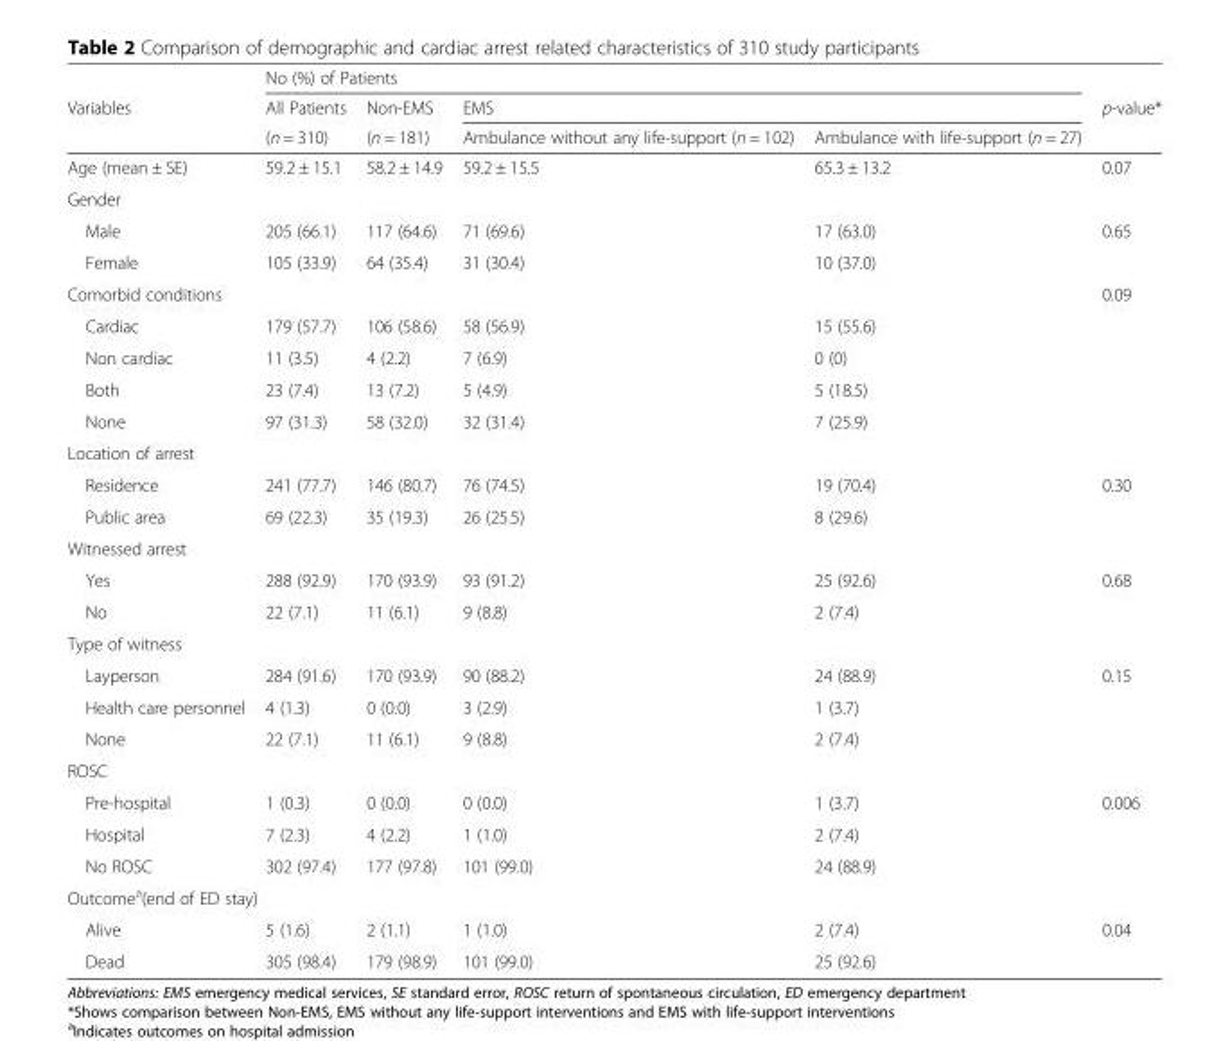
<table><thead><tr><td rowspan="3">Variables</td><td colspan="4">No (%) of Patients</td><td rowspan="3">p-value*</td></tr><tr><td rowspan="2">All Patients (n = 310)</td><td rowspan="2">Non-EMS (n = 181)</td><td colspan="2">EMS</td></tr><tr><td>Ambulance without any life-support (n = 102)</td><td>Ambulance with life-support (n = 27)</td></tr></thead><tbody><tr><td>Age (mean ± SE)</td><td>59.2 ± 15.1</td><td>58.2 ± 14.9</td><td>59.2 ± 15.5</td><td>65.3 ± 13.2</td><td>0.07</td></tr><tr><td colspan="6">Gender</td></tr><tr><td>Male</td><td>205 (66.1)</td><td>117 (64.6)</td><td>71 (69.6)</td><td>17 (63.0)</td><td>0.65</td></tr><tr><td>Female</td><td>105 (33.9)</td><td>64 (35.4)</td><td>31 (30.4)</td><td>10 (37.0)</td><td></td></tr><tr><td>Comorbid conditions</td><td></td><td></td><td></td><td></td><td>0.09</td></tr><tr><td>Cardiac</td><td>179 (57.7)</td><td>106 (58.6)</td><td>58 (56.9)</td><td>15 (55.6)</td><td rowspan="4"></td></tr><tr><td>Non cardiac</td><td>11 (3.5)</td><td>4 (2.2)</td><td>7 (6.9)</td><td>0 (0)</td></tr><tr><td>Both</td><td>23 (7.4)</td><td>13 (7.2)</td><td>5 (4.9)</td><td>5 (18.5)</td></tr><tr><td>None</td><td>97 (31.3)</td><td>58 (32.0)</td><td>32 (31.4)</td><td>7 (25.9)</td></tr><tr><td colspan="6">Location of arrest</td></tr><tr><td>Residence</td><td>241 (77.7)</td><td>146 (80.7)</td><td>76 (74.5)</td><td>19 (70.4)</td><td>0.30</td></tr><tr><td>Public area</td><td>69 (22.3)</td><td>35 (19.3)</td><td>26 (25.5)</td><td>8 (29.6)</td><td></td></tr><tr><td colspan="6">Witnessed arrest</td></tr><tr><td>Yes</td><td>288 (92.9)</td><td>170 (93.9)</td><td>93 (91.2)</td><td>25 (92.6)</td><td>0.68</td></tr><tr><td>No</td><td>22 (7.1)</td><td>11 (6.1)</td><td>9 (8.8)</td><td>2 (7.4)</td><td></td></tr><tr><td colspan="6">Type of witness</td></tr><tr><td>Layperson</td><td>284 (91.6)</td><td>170 (93.9)</td><td>90 (88.2)</td><td>24 (88.9)</td><td>0.15</td></tr><tr><td>Health care personnel</td><td>4 (1.3)</td><td>0 (0.0)</td><td>3 (2.9)</td><td>1 (3.7)</td><td></td></tr><tr><td>None</td><td>22 (7.1)</td><td>11 (6.1)</td><td>9 (8.8)</td><td>2 (7.4)</td><td></td></tr><tr><td colspan="6">ROSC</td></tr><tr><td>Pre-hospital</td><td>1 (0.3)</td><td>0 (0.0)</td><td>0 (0.0)</td><td>1 (3.7)</td><td>0.006</td></tr><tr><td>Hospital</td><td>7 (2.3)</td><td>4 (2.2)</td><td>1 (1.0)</td><td>2 (7.4)</td><td></td></tr><tr><td>No ROSC</td><td>302 (97.4)</td><td>177 (97.8)</td><td>101 (99.0)</td><td>24 (88.9)</td><td></td></tr><tr><td colspan="6">Outcome<sup>a</sup>(end of ED stay)</td></tr><tr><td>Alive</td><td>5 (1.6)</td><td>2 (1.1)</td><td>1 (1.0)</td><td>2 (7.4)</td><td>0.04</td></tr><tr><td>Dead</td><td>305 (98.4)</td><td>179 (98.9)</td><td>101 (99.0)</td><td>25 (92.6)</td><td></td></tr></tbody></table>